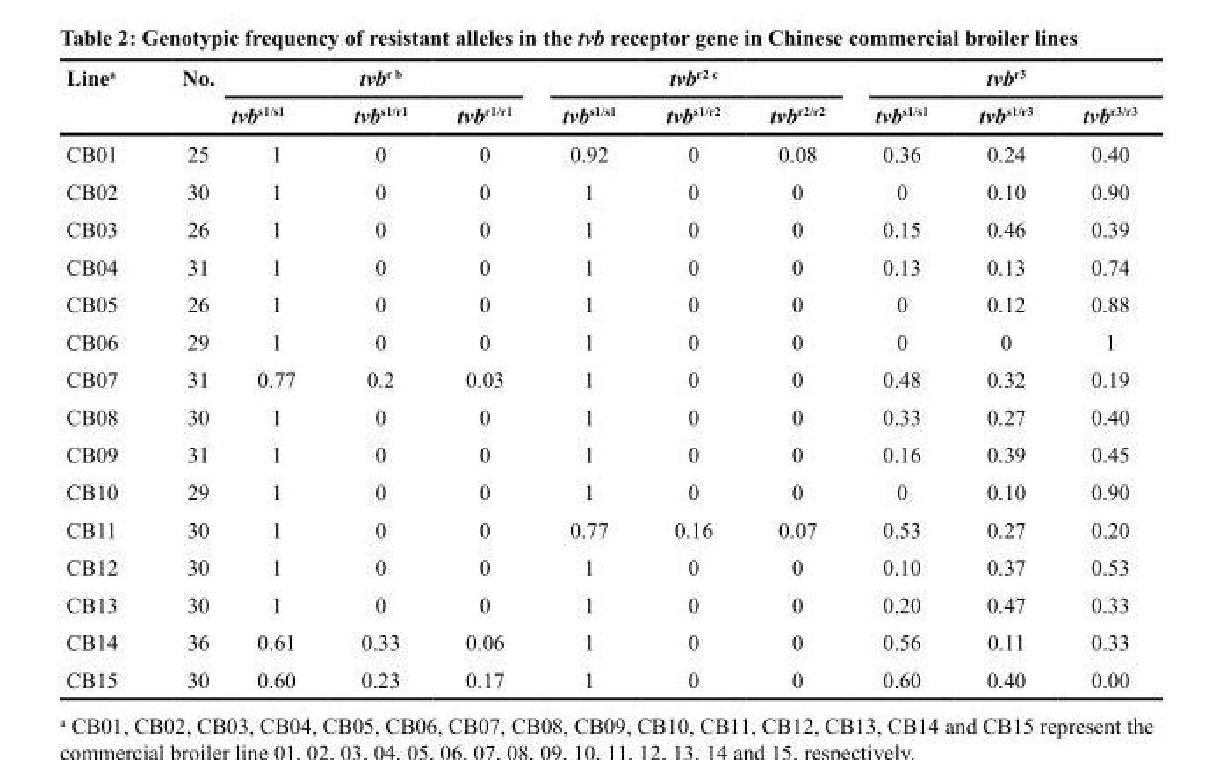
<table><thead><tr><td rowspan="2">Line<sup>a</sup></td><td rowspan="2">No.</td><td colspan="3">tvb<sup>r b</sup></td><td colspan="3">tvb<sup>r2 c</sup></td><td colspan="3">tvb<sup>r3</sup></td></tr><tr><td>tvb<sup>s1/s1</sup></td><td>tvb<sup>s1/r1</sup></td><td>tvb<sup>r1/r1</sup></td><td>tvb<sup>s1/s1</sup></td><td>tvb<sup>s1/r2</sup></td><td>tvb<sup>r2/r2</sup></td><td>tvb<sup>s1/s1</sup></td><td>tvb<sup>s1/r3</sup></td><td>tvb<sup>r3/r3</sup></td></tr></thead><tbody><tr><td>CB01</td><td>25</td><td>1</td><td>0</td><td>0</td><td>0.92</td><td>0</td><td>0.08</td><td>0.36</td><td>0.24</td><td>0.40</td></tr><tr><td>CB02</td><td>30</td><td>1</td><td>0</td><td>0</td><td>1</td><td>0</td><td>0</td><td>0</td><td>0.10</td><td>0.90</td></tr><tr><td>CB03</td><td>26</td><td>1</td><td>0</td><td>0</td><td>1</td><td>0</td><td>0</td><td>0.15</td><td>0.46</td><td>0.39</td></tr><tr><td>CB04</td><td>31</td><td>1</td><td>0</td><td>0</td><td>1</td><td>0</td><td>0</td><td>0.13</td><td>0.13</td><td>0.74</td></tr><tr><td>CB05</td><td>26</td><td>1</td><td>0</td><td>0</td><td>1</td><td>0</td><td>0</td><td>0</td><td>0.12</td><td>0.88</td></tr><tr><td>CB06</td><td>29</td><td>1</td><td>0</td><td>0</td><td>1</td><td>0</td><td>0</td><td>0</td><td>0</td><td>1</td></tr><tr><td>CB07</td><td>31</td><td>0.77</td><td>0.2</td><td>0.03</td><td>1</td><td>0</td><td>0</td><td>0.48</td><td>0.32</td><td>0.19</td></tr><tr><td>CB08</td><td>30</td><td>1</td><td>0</td><td>0</td><td>1</td><td>0</td><td>0</td><td>0.33</td><td>0.27</td><td>0.40</td></tr><tr><td>CB09</td><td>31</td><td>1</td><td>0</td><td>0</td><td>1</td><td>0</td><td>0</td><td>0.16</td><td>0.39</td><td>0.45</td></tr><tr><td>CB10</td><td>29</td><td>1</td><td>0</td><td>0</td><td>1</td><td>0</td><td>0</td><td>0</td><td>0.10</td><td>0.90</td></tr><tr><td>CB11</td><td>30</td><td>1</td><td>0</td><td>0</td><td>0.77</td><td>0.16</td><td>0.07</td><td>0.53</td><td>0.27</td><td>0.20</td></tr><tr><td>CB12</td><td>30</td><td>1</td><td>0</td><td>0</td><td>1</td><td>0</td><td>0</td><td>0.10</td><td>0.37</td><td>0.53</td></tr><tr><td>CB13</td><td>30</td><td>1</td><td>0</td><td>0</td><td>1</td><td>0</td><td>0</td><td>0.20</td><td>0.47</td><td>0.33</td></tr><tr><td>CB14</td><td>36</td><td>0.61</td><td>0.33</td><td>0.06</td><td>1</td><td>0</td><td>0</td><td>0.56</td><td>0.11</td><td>0.33</td></tr><tr><td>CB15</td><td>30</td><td>0.60</td><td>0.23</td><td>0.17</td><td>1</td><td>0</td><td>0</td><td>0.60</td><td>0.40</td><td>0.00</td></tr></tbody></table>